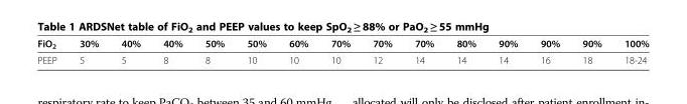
<table><thead><tr><td>FiO<sub>2</sub></td><td>30%</td><td>40%</td><td>40%</td><td>50%</td><td>50%</td><td>60%</td><td>70%</td><td>70%</td><td>70%</td><td>80%</td><td>90%</td><td>90%</td><td>90%</td><td>100%</td></tr></thead><tbody><tr><td>PEEP</td><td>5</td><td>5</td><td>8</td><td>8</td><td>10</td><td>10</td><td>10</td><td>12</td><td>14</td><td>14</td><td>14</td><td>16</td><td>18</td><td>18-24</td></tr></tbody></table>